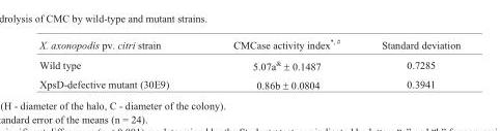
<table><thead><tr><td>X. axonopodis pv. citri strain</td><td>CMCase activity index<sup>*, #</sup></td><td>Standard deviation</td></tr></thead><tbody><tr><td>Wild type</td><td>5.07a<sup>&amp;</sup> ± 0.1487</td><td>0.7285</td></tr><tr><td>XpsD-defective mutant (30E9)</td><td>0.86b ± 0.0804</td><td>0.3941</td></tr></tbody></table>